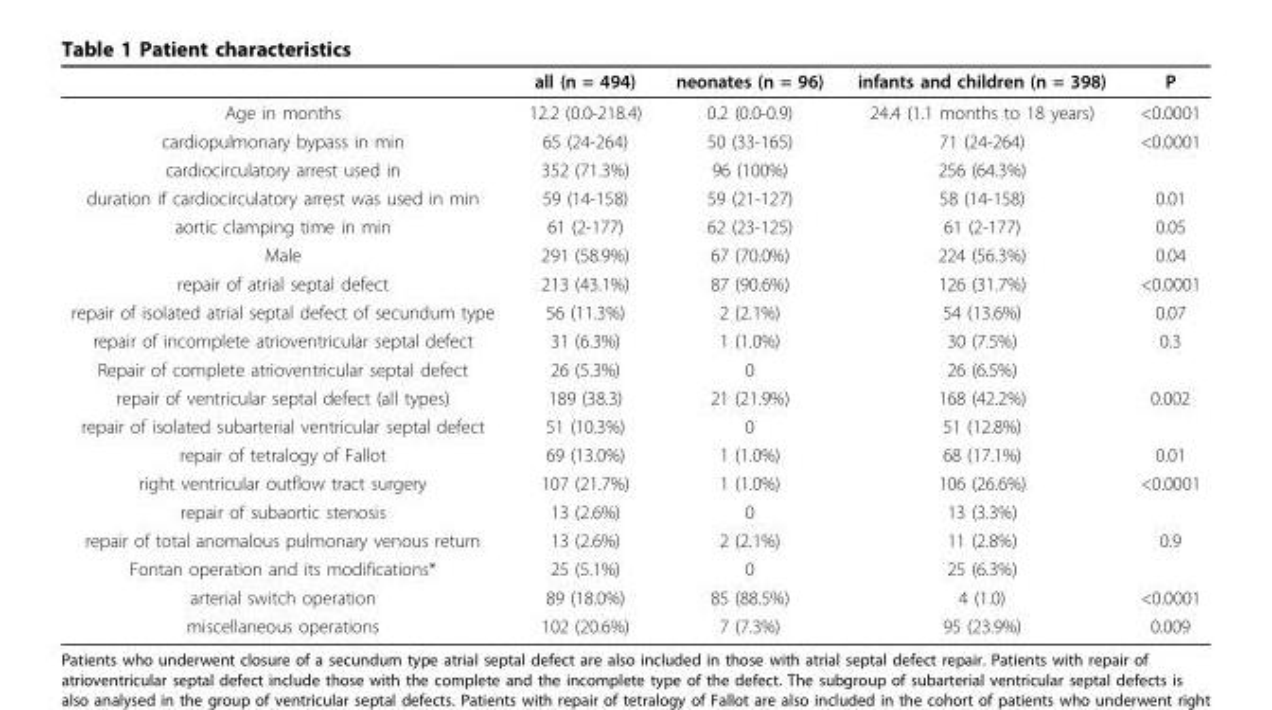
<table><thead><tr><td></td><td>all (n = 494)</td><td>neonates (n = 96)</td><td>infants and children (n = 398)</td><td>P</td></tr></thead><tbody><tr><td>Age in months</td><td>12.2 (0.0-218.4)</td><td>0.2 (0.0-0.9)</td><td>24.4 (1.1 months to 18 years)</td><td>&lt;0.0001</td></tr><tr><td>cardiopulmonary bypass in min</td><td>65 (24-264)</td><td>50 (33-165)</td><td>71 (24-264)</td><td>&lt;0.0001</td></tr><tr><td>cardiocirculatory arrest used in</td><td>352 (71.3%)</td><td>96 (100%)</td><td>256 (64.3%)</td><td></td></tr><tr><td>duration if cardiocirculatory arrest was used in min</td><td>59 (14-158)</td><td>59 (21-127)</td><td>58 (14-158)</td><td>0.01</td></tr><tr><td>aortic clamping time in min</td><td>61 (2-177)</td><td>62 (23-125)</td><td>61 (2-177)</td><td>0.05</td></tr><tr><td>Male</td><td>291 (58.9%)</td><td>67 (70.0%)</td><td>224 (56.3%)</td><td>0.04</td></tr><tr><td>repair of atrial septal defect</td><td>213 (43.1%)</td><td>87 (90.6%)</td><td>126 (31.7%)</td><td>&lt;0.0001</td></tr><tr><td>repair of isolated atrial septal defect of secundum type</td><td>56 (11.3%)</td><td>2 (2.1%)</td><td>54 (13.6%)</td><td>0.07</td></tr><tr><td>repair of incomplete atrioventricular septal defect</td><td>31 (6.3%)</td><td>1 (1.0%)</td><td>30 (7.5%)</td><td>0.3</td></tr><tr><td>Repair of complete atrioventricular septal defect</td><td>26 (5.3%)</td><td>0</td><td>26 (6.5%)</td><td></td></tr><tr><td>repair of ventricular septal defect (all types)</td><td>189 (38.3)</td><td>21 (21.9%)</td><td>168 (42.2%)</td><td>0.002</td></tr><tr><td>repair of isolated subarterial ventricular septal defect</td><td>51 (10.3%)</td><td>0</td><td>51 (12.8%)</td><td></td></tr><tr><td>repair of tetralogy of Fallot</td><td>69 (13.0%)</td><td>1 (1.0%)</td><td>68 (17.1%)</td><td>0.01</td></tr><tr><td>right ventricular outflow tract surgery</td><td>107 (21.7%)</td><td>1 (1.0%)</td><td>106 (26.6%)</td><td>&lt;0.0001</td></tr><tr><td>repair of subaortic stenosis</td><td>13 (2.6%)</td><td>0</td><td>13 (3.3%)</td><td></td></tr><tr><td>repair of total anomalous pulmonary venous return</td><td>13 (2.6%)</td><td>2 (2.1%)</td><td>11 (2.8%)</td><td>0.9</td></tr><tr><td>Fontan operation and its modifications*</td><td>25 (5.1%)</td><td>0</td><td>25 (6.3%)</td><td></td></tr><tr><td>arterial switch operation</td><td>89 (18.0%)</td><td>85 (88.5%)</td><td>4 (1.0)</td><td>&lt;0.0001</td></tr><tr><td>miscellaneous operations</td><td>102 (20.6%)</td><td>7 (7.3%)</td><td>95 (23.9%)</td><td>0.009</td></tr></tbody></table>